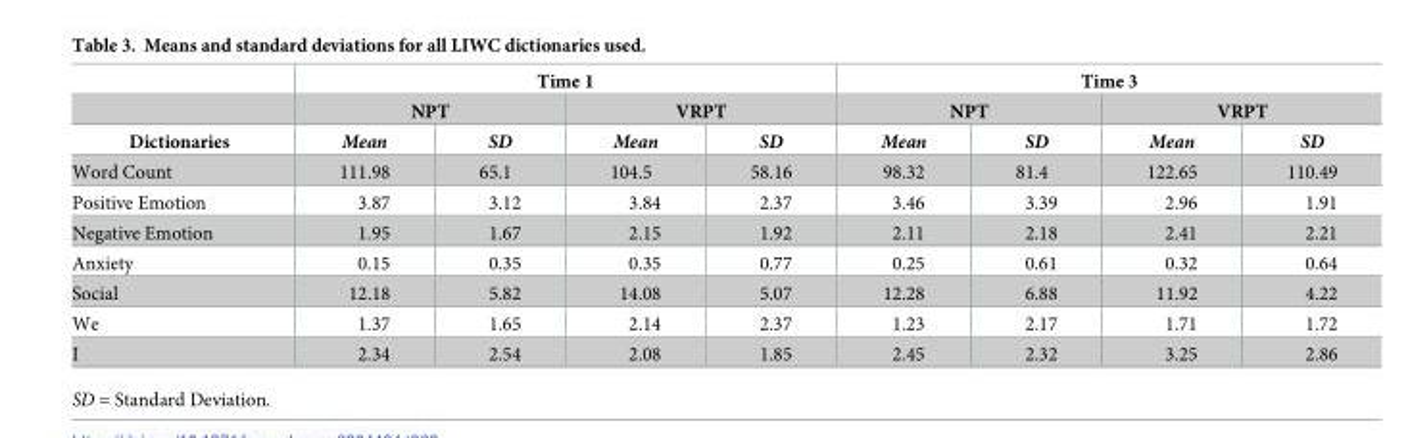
<table><thead><tr><td rowspan="3">Dictionaries</td><td colspan="4">Time 1</td><td colspan="4">Time 3</td></tr><tr><td colspan="2">NPT</td><td colspan="2">VRPT</td><td colspan="2">NPT</td><td colspan="2">VRPT</td></tr><tr><td>Mean</td><td>SD</td><td>Mean</td><td>SD</td><td>Mean</td><td>SD</td><td>Mean</td><td>SD</td></tr></thead><tbody><tr><td>Word Count</td><td>111.98</td><td>65.1</td><td>104.5</td><td>58.16</td><td>98.32</td><td>81.4</td><td>122.65</td><td>110.49</td></tr><tr><td>Positive Emotion</td><td>3.87</td><td>3.12</td><td>3.84</td><td>2.37</td><td>3.46</td><td>3.39</td><td>2.96</td><td>1.91</td></tr><tr><td>Negative Emotion</td><td>1.95</td><td>1.67</td><td>2.15</td><td>1.92</td><td>2.11</td><td>2.18</td><td>2.41</td><td>2.21</td></tr><tr><td>Anxiety</td><td>0.15</td><td>0.35</td><td>0.35</td><td>0.77</td><td>0.25</td><td>0.61</td><td>0.32</td><td>0.64</td></tr><tr><td>Social</td><td>12.18</td><td>5.82</td><td>14.08</td><td>5.07</td><td>12.28</td><td>6.88</td><td>11.92</td><td>4.22</td></tr><tr><td>We</td><td>1.37</td><td>1.65</td><td>2.14</td><td>2.37</td><td>1.23</td><td>2.17</td><td>1.71</td><td>1.72</td></tr><tr><td>I</td><td>2.34</td><td>2.54</td><td>2.08</td><td>1.85</td><td>2.45</td><td>2.32</td><td>3.25</td><td>2.86</td></tr></tbody></table>